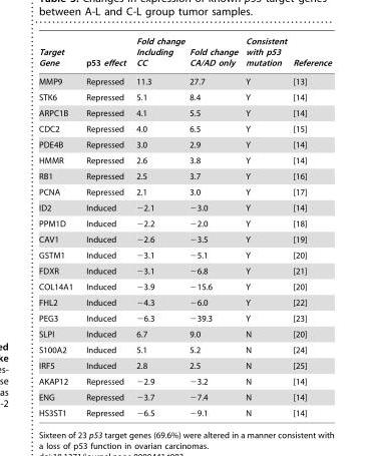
<table><thead><tr><td>Target Gene</td><td>p53 effect</td><td>Fold change Including CC</td><td>Fold change CA/AD only</td><td>Consistent with p53 mutation</td><td>Reference</td></tr></thead><tbody><tr><td>MMP9</td><td>Repressed</td><td>11.3</td><td>27.7</td><td>Y</td><td>[13]</td></tr><tr><td>STK6</td><td>Repressed</td><td>5.1</td><td>8.4</td><td>Y</td><td>[14]</td></tr><tr><td>ARPC1B</td><td>Repressed</td><td>4.1</td><td>5.5</td><td>Y</td><td>[14]</td></tr><tr><td>CDC2</td><td>Repressed</td><td>4.0</td><td>6.5</td><td>Y</td><td>[15]</td></tr><tr><td>PDE4B</td><td>Repressed</td><td>3.0</td><td>2.9</td><td>Y</td><td>[14]</td></tr><tr><td>HMMR</td><td>Repressed</td><td>2.6</td><td>3.8</td><td>Y</td><td>[14]</td></tr><tr><td>RB1</td><td>Repressed</td><td>2.5</td><td>3.7</td><td>Y</td><td>[16]</td></tr><tr><td>PCNA</td><td>Repressed</td><td>2.1</td><td>3.0</td><td>Y</td><td>[17]</td></tr><tr><td>ID2</td><td>Induced</td><td>−2.1</td><td>−3.0</td><td>Y</td><td>[14]</td></tr><tr><td>PPM1D</td><td>Induced</td><td>−2.2</td><td>−2.0</td><td>Y</td><td>[18]</td></tr><tr><td>CAV1</td><td>Induced</td><td>−2.6</td><td>−3.5</td><td>Y</td><td>[19]</td></tr><tr><td>GSTM1</td><td>Induced</td><td>−3.1</td><td>−5.1</td><td>Y</td><td>[20]</td></tr><tr><td>FDXR</td><td>Induced</td><td>−3.1</td><td>−6.8</td><td>Y</td><td>[21]</td></tr><tr><td>COL14A1</td><td>Induced</td><td>−3.9</td><td>−15.6</td><td>Y</td><td>[20]</td></tr><tr><td>FHL2</td><td>Induced</td><td>−4.3</td><td>−6.0</td><td>Y</td><td>[22]</td></tr><tr><td>PEG3</td><td>Induced</td><td>−6.3</td><td>−39.3</td><td>Y</td><td>[23]</td></tr><tr><td>SLPI</td><td>Induced</td><td>6.7</td><td>9.0</td><td>N</td><td>[20]</td></tr><tr><td>S100A2</td><td>Induced</td><td>5.1</td><td>5.2</td><td>N</td><td>[24]</td></tr><tr><td>IRF5</td><td>Induced</td><td>2.8</td><td>2.5</td><td>N</td><td>[25]</td></tr><tr><td>AKAP12</td><td>Repressed</td><td>−2.9</td><td>−3.2</td><td>N</td><td>[14]</td></tr><tr><td>ENG</td><td>Repressed</td><td>−3.7</td><td>−7.4</td><td>N</td><td>[14]</td></tr><tr><td>HS3ST1</td><td>Repressed</td><td>−6.5</td><td>−9.1</td><td>N</td><td>[14]</td></tr></tbody></table>